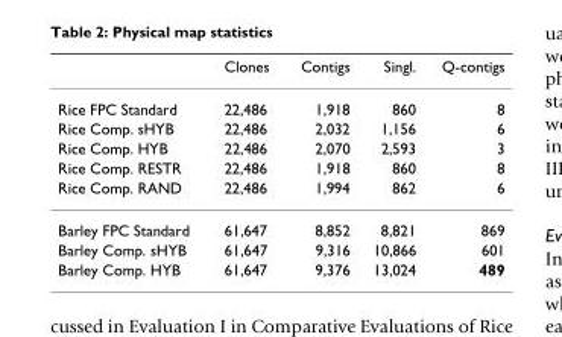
<table><thead><tr><td></td><td>Clones</td><td>Contigs</td><td>Singl.</td><td>Q-contigs</td></tr></thead><tbody><tr><td>Rice FPC Standard</td><td>22,486</td><td>1,918</td><td>860</td><td>8</td></tr><tr><td>Rice Comp. sHYB</td><td>22,486</td><td>2,032</td><td>1,156</td><td>6</td></tr><tr><td>Rice Comp. HYB</td><td>22,486</td><td>2,070</td><td>2,593</td><td>3</td></tr><tr><td>Rice Comp. RESTR</td><td>22,486</td><td>1,918</td><td>860</td><td>8</td></tr><tr><td>Rice Comp. RAND</td><td>22,486</td><td>1,994</td><td>862</td><td>6</td></tr><tr><td>Barley FPC Standard</td><td>61,647</td><td>8,852</td><td>8,821</td><td>869</td></tr><tr><td>Barley Comp. sHYB</td><td>61,647</td><td>9,316</td><td>10,866</td><td>601</td></tr><tr><td>Barley Comp. HYB</td><td>61,647</td><td>9,376</td><td>13,024</td><td>489</td></tr></tbody></table>